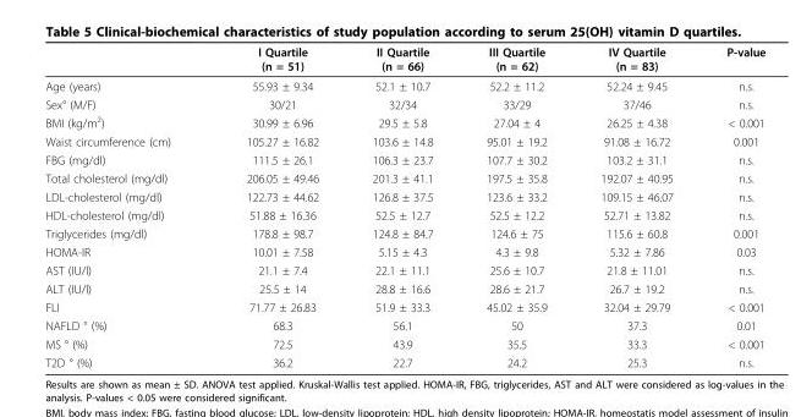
<table><thead><tr><td></td><td>I Quartile (n = 51)</td><td>II Quartile (n = 66)</td><td>III Quartile (n = 62)</td><td>IV Quartile (n = 83)</td><td>P-value</td></tr></thead><tbody><tr><td>Age (years)</td><td>55.93 ± 9.34</td><td>52.1 ± 10.7</td><td>52.2 ± 11.2</td><td>52.24 ± 9.45</td><td>n.s.</td></tr><tr><td>Sex° (M/F)</td><td>30/21</td><td>32/34</td><td>33/29</td><td>37/46</td><td>n.s.</td></tr><tr><td>BMI (kg/m<sup>2</sup>)</td><td>30.99 ± 6.96</td><td>29.5 ± 5.8</td><td>27.04 ± 4</td><td>26.25 ± 4.38</td><td>&lt; 0.001</td></tr><tr><td>Waist circumference (cm)</td><td>105.27 ± 16.82</td><td>103.6 ± 14.8</td><td>95.01 ± 19.2</td><td>91.08 ± 16.72</td><td>0.001</td></tr><tr><td>FBG (mg/dl)</td><td>111.5 ± 26.1</td><td>106.3 ± 23.7</td><td>107.7 ± 30.2</td><td>103.2 ± 31.1</td><td>n.s.</td></tr><tr><td>Total cholesterol (mg/dl)</td><td>206.05 ± 49.46</td><td>201.3 ± 41.1</td><td>197.5 ± 35.8</td><td>192.07 ± 40.95</td><td>n.s.</td></tr><tr><td>LDL-cholesterol (mg/dl)</td><td>122.73 ± 44.62</td><td>126.8 ± 37.5</td><td>123.6 ± 33.2</td><td>109.15 ± 46.07</td><td>n.s.</td></tr><tr><td>HDL-cholesterol (mg/dl)</td><td>51.88 ± 16.36</td><td>52.5 ± 12.7</td><td>52.5 ± 12.2</td><td>52.71 ± 13.82</td><td>n.s.</td></tr><tr><td>Triglycerides (mg/dl)</td><td>178.8 ± 98.7</td><td>124.8 ± 84.7</td><td>124.6 ± 75</td><td>115.6 ± 60.8</td><td>0.001</td></tr><tr><td>HOMA-IR</td><td>10.01 ± 7.58</td><td>5.15 ± 4.3</td><td>4.3 ± 9.8</td><td>5.32 ± 7.86</td><td>0.03</td></tr><tr><td>AST (IU/l)</td><td>21.1 ± 7.4</td><td>22.1 ± 11.1</td><td>25.6 ± 10.7</td><td>21.8 ± 11.01</td><td>n.s.</td></tr><tr><td>ALT (IU/l)</td><td>25.5 ± 14</td><td>28.8 ± 16.6</td><td>28.6 ± 21.7</td><td>26.7 ± 19.2</td><td>n.s.</td></tr><tr><td>FLI</td><td>71.77 ± 26.83</td><td>51.9 ± 33.3</td><td>45.02 ± 35.9</td><td>32.04 ± 29.79</td><td>&lt; 0.001</td></tr><tr><td>NAFLD ° (%)</td><td>68.3</td><td>56.1</td><td>50</td><td>37.3</td><td>0.01</td></tr><tr><td>MS ° (%)</td><td>72.5</td><td>43.9</td><td>35.5</td><td>33.3</td><td>&lt; 0.001</td></tr><tr><td>T2D ° (%)</td><td>36.2</td><td>22.7</td><td>24.2</td><td>25.3</td><td>n.s.</td></tr></tbody></table>